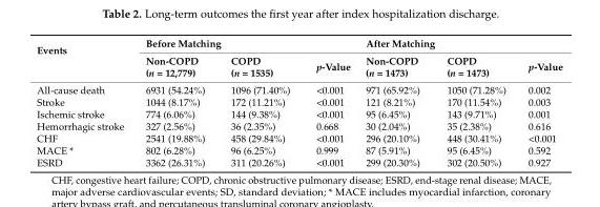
<table><thead><tr><td rowspan="2">Events</td><td colspan="3">Before Matching</td><td colspan="3">After Matching</td></tr><tr><td>Non-COPD (n = 12,779)</td><td>COPD (n = 1535)</td><td>p-Value</td><td>Non-COPD (n = 1473)</td><td>COPD (n = 1473)</td><td>p-Value</td></tr></thead><tbody><tr><td>All-cause death</td><td>6931 (54.24%)</td><td>1096 (71.40%)</td><td>&lt;0.001</td><td>971 (65.92%)</td><td>1050 (71.28%)</td><td>0.002</td></tr><tr><td>Stroke</td><td>1044 (8.17%)</td><td>172 (11.21%)</td><td>&lt;0.001</td><td>121 (8.21%)</td><td>170 (11.54%)</td><td>0.003</td></tr><tr><td>Ischemic stroke</td><td>774 (6.06%)</td><td>144 (9.38%)</td><td>&lt;0.001</td><td>95 (6.45%)</td><td>143 (9.71%)</td><td>0.001</td></tr><tr><td>Hemorrhagic stroke</td><td>327 (2.56%)</td><td>36 (2.35%)</td><td>0.668</td><td>30 (2.04%)</td><td>35 (2.38%)</td><td>0.616</td></tr><tr><td>CHF</td><td>2541 (19.88%)</td><td>458 (29.84%)</td><td>&lt;0.001</td><td>296 (20.10%)</td><td>448 (30.41%)</td><td>&lt;0.001</td></tr><tr><td>MACE *</td><td>802 (6.28%)</td><td>96 (6.25%)</td><td>0.999</td><td>87 (5.91%)</td><td>95 (6.45%)</td><td>0.592</td></tr><tr><td>ESRD</td><td>3362 (26.31%)</td><td>311 (20.26%)</td><td>&lt;0.001</td><td>299 (20.30%)</td><td>302 (20.50%)</td><td>0.927</td></tr></tbody></table>